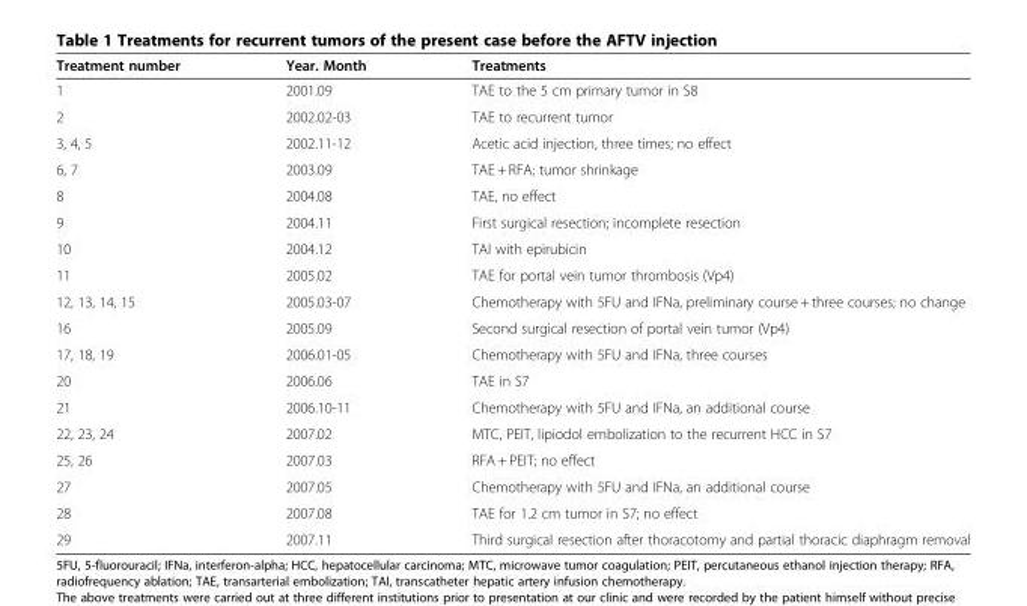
<table><thead><tr><td>Treatment number</td><td>Year. Month</td><td>Treatments</td></tr></thead><tbody><tr><td>1</td><td>2001.09</td><td>TAE to the 5 cm primary tumor in S8</td></tr><tr><td>2</td><td>2002.02-03</td><td>TAE to recurrent tumor</td></tr><tr><td>3, 4, 5</td><td>2002.11-12</td><td>Acetic acid injection, three times; no effect</td></tr><tr><td>6, 7</td><td>2003.09</td><td>TAE + RFA; tumor shrinkage</td></tr><tr><td>8</td><td>2004.08</td><td>TAE, no effect</td></tr><tr><td>9</td><td>2004.11</td><td>First surgical resection; incomplete resection</td></tr><tr><td>10</td><td>2004.12</td><td>TAI with epirubicin</td></tr><tr><td>11</td><td>2005.02</td><td>TAE for portal vein tumor thrombosis (Vp4)</td></tr><tr><td>12, 13, 14, 15</td><td>2005.03-07</td><td>Chemotherapy with 5FU and IFNa, preliminary course + three courses; no change</td></tr><tr><td>16</td><td>2005.09</td><td>Second surgical resection of portal vein tumor (Vp4)</td></tr><tr><td>17, 18, 19</td><td>2006.01-05</td><td>Chemotherapy with 5FU and IFNa, three courses</td></tr><tr><td>20</td><td>2006.06</td><td>TAE in S7</td></tr><tr><td>21</td><td>2006.10-11</td><td>Chemotherapy with 5FU and IFNa, an additional course</td></tr><tr><td>22, 23, 24</td><td>2007.02</td><td>MTC, PEIT, lipiodol embolization to the recurrent HCC in S7</td></tr><tr><td>25, 26</td><td>2007.03</td><td>RFA + PEIT; no effect</td></tr><tr><td>27</td><td>2007.05</td><td>Chemotherapy with 5FU and IFNa, an additional course</td></tr><tr><td>28</td><td>2007.08</td><td>TAE for 1.2 cm tumor in S7; no effect</td></tr><tr><td>29</td><td>2007.11</td><td>Third surgical resection after thoracotomy and partial thoracic diaphragm removal</td></tr></tbody></table>